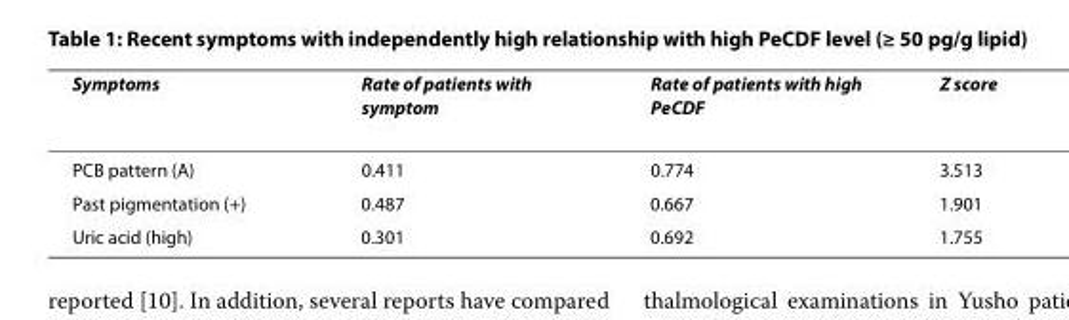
<table><thead><tr><td>Symptoms</td><td>Rate of patients with symptom</td><td>Rate of patients with high PeCDF</td><td>Z score</td></tr></thead><tbody><tr><td>PCB pattern (A)</td><td>0.411</td><td>0.774</td><td>3.513</td></tr><tr><td>Past pigmentation (+)</td><td>0.487</td><td>0.667</td><td>1.901</td></tr><tr><td>Uric acid (high)</td><td>0.301</td><td>0.692</td><td>1.755</td></tr></tbody></table>